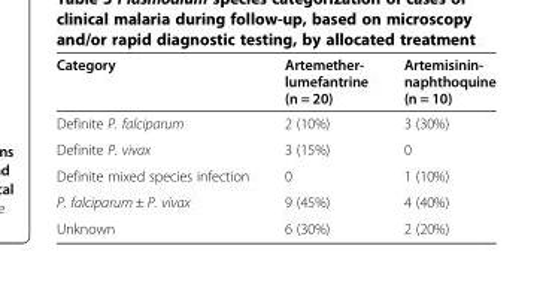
<table><thead><tr><td>Category</td><td>Artemether- lumefantrine (n = 20)</td><td>Artemisinin- naphthoquine (n = 10)</td></tr></thead><tbody><tr><td>Definite P. falciparum</td><td>2 (10%)</td><td>3 (30%)</td></tr><tr><td>Definite P. vivax</td><td>3 (15%)</td><td>0</td></tr><tr><td>Definite mixed species infection</td><td>0</td><td>1 (10%)</td></tr><tr><td>P. falciparum ± P. vivax</td><td>9 (45%)</td><td>4 (40%)</td></tr><tr><td>Unknown</td><td>6 (30%)</td><td>2 (20%)</td></tr></tbody></table>